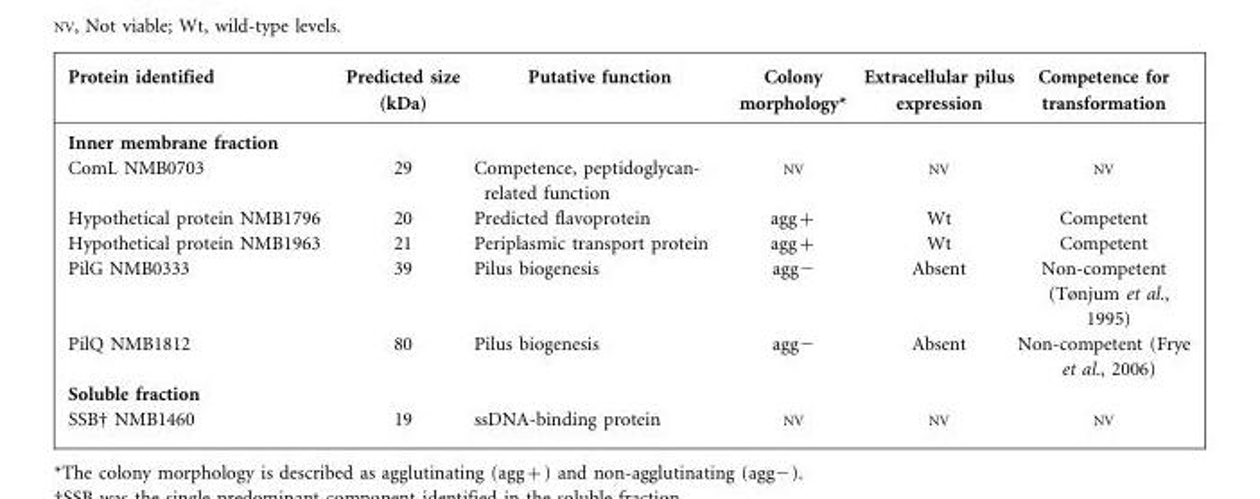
<table><thead><tr><td>Protein identified</td><td>Predicted size (kDa)</td><td>Putative function</td><td>Colony morphology*</td><td>Extracellular pilus expression</td><td>Competence for transformation</td></tr></thead><tbody><tr><td colspan="6">Inner membrane fraction</td></tr><tr><td>ComL NMB0703</td><td>29</td><td>Competence, peptidoglycan- related function</td><td>NV</td><td>NV</td><td>NV</td></tr><tr><td>Hypothetical protein NMB1796</td><td>20</td><td>Predicted flavoprotein</td><td>agg+</td><td>Wt</td><td>Competent</td></tr><tr><td>Hypothetical protein NMB1963</td><td>21</td><td>Periplasmic transport protein</td><td>agg+</td><td>Wt</td><td>Competent</td></tr><tr><td>PilG NMB0333</td><td>39</td><td>Pilus biogenesis</td><td>agg−</td><td>Absent</td><td>Non-competent (Tønjum et al., 1995)</td></tr><tr><td>PilQ NMB1812</td><td>80</td><td>Pilus biogenesis</td><td>agg−</td><td>Absent</td><td>Non-competent (Frye et al., 2006)</td></tr><tr><td colspan="6">Soluble fraction</td></tr><tr><td>SSB† NMB1460</td><td>19</td><td>ssDNA-binding protein</td><td>NV</td><td>NV</td><td>NV</td></tr></tbody></table>